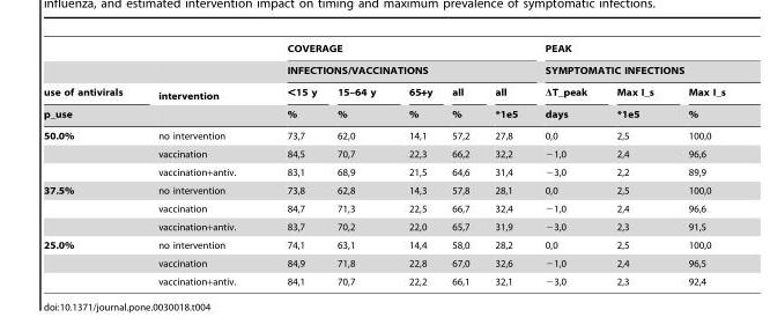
<table><thead><tr><td rowspan="4">use of antivirals p_use</td><td rowspan="4">intervention</td><td rowspan="2" colspan="5">COVERAGE INFECTIONS/VACCINATIONS</td><td rowspan="2" colspan="3">PEAK SYMPTOMATIC INFECTIONS</td></tr><tr></tr><tr><td rowspan="2">&lt;15 y %</td><td rowspan="2">15–64 y %</td><td rowspan="2">65+y %</td><td rowspan="2">all %</td><td rowspan="2">all *1e5</td><td rowspan="2">ΔT_peak days</td><td rowspan="2">Max I_s *1e5</td><td rowspan="2">Max I_s %</td></tr><tr></tr></thead><tbody><tr><td rowspan="3">50.0%</td><td>no intervention</td><td>73,7</td><td>62,0</td><td>14,1</td><td>57,2</td><td>27,8</td><td>0,0</td><td>2,5</td><td>100,0</td></tr><tr><td>vaccination</td><td>84,5</td><td>70,7</td><td>22,3</td><td>66,2</td><td>32,2</td><td>−1,0</td><td>2,4</td><td>96,6</td></tr><tr><td>vaccination+antiv.</td><td>83,1</td><td>68,9</td><td>21,5</td><td>64,6</td><td>31,4</td><td>−3,0</td><td>2,2</td><td>89,9</td></tr><tr><td rowspan="3">37.5%</td><td>no intervention</td><td>73,8</td><td>62,8</td><td>14,3</td><td>57,8</td><td>28,1</td><td>0,0</td><td>2,5</td><td>100,0</td></tr><tr><td>vaccination</td><td>84,7</td><td>71,3</td><td>22,5</td><td>66,7</td><td>32,4</td><td>−1,0</td><td>2,4</td><td>96,6</td></tr><tr><td>vaccination+antiv.</td><td>83,7</td><td>70,2</td><td>22,0</td><td>65,7</td><td>31,9</td><td>−3,0</td><td>2,3</td><td>91,5</td></tr><tr><td rowspan="3">25.0%</td><td>no intervention</td><td>74,1</td><td>63,1</td><td>14,4</td><td>58,0</td><td>28,2</td><td>0,0</td><td>2,5</td><td>100,0</td></tr><tr><td>vaccination</td><td>84,9</td><td>71,8</td><td>22,8</td><td>67,0</td><td>32,6</td><td>−1,0</td><td>2,4</td><td>96,5</td></tr><tr><td>vaccination+antiv.</td><td>84,1</td><td>70,7</td><td>22,2</td><td>66,1</td><td>32,1</td><td>−3,0</td><td>2,3</td><td>92,4</td></tr></tbody></table>